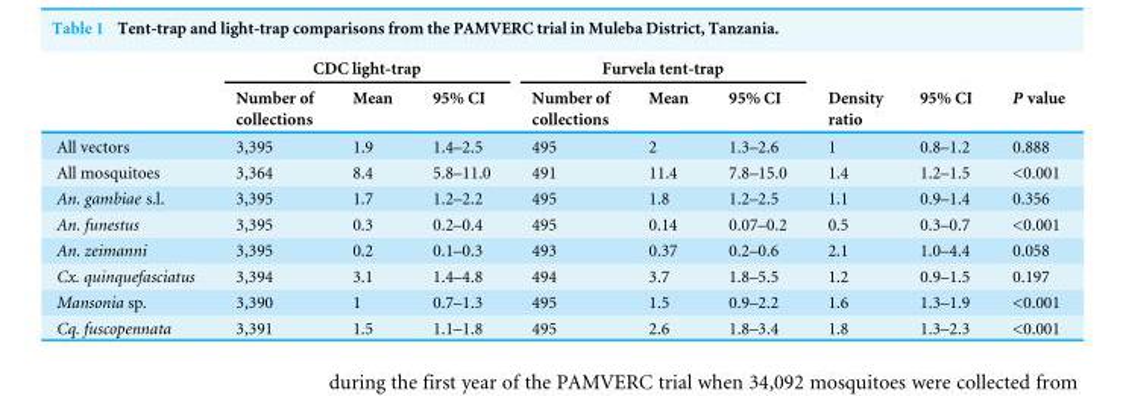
<table><thead><tr><td rowspan="2"></td><td colspan="3">CDC light-trap</td><td colspan="3">Furvela tent-trap</td><td rowspan="2">Density ratio</td><td rowspan="2">95% CI</td><td rowspan="2">P value</td></tr><tr><td>Number of collections</td><td>Mean</td><td>95% CI</td><td>Number of collections</td><td>Mean</td><td>95% CI</td></tr></thead><tbody><tr><td>All vectors</td><td>3,395</td><td>1.9</td><td>1.4–2.5</td><td>495</td><td>2</td><td>1.3–2.6</td><td>1</td><td>0.8–1.2</td><td>0.888</td></tr><tr><td>All mosquitoes</td><td>3,364</td><td>8.4</td><td>5.8–11.0</td><td>491</td><td>11.4</td><td>7.8–15.0</td><td>1.4</td><td>1.2–1.5</td><td>&lt;0.001</td></tr><tr><td>An. gambiae s.l.</td><td>3,395</td><td>1.7</td><td>1.2–2.2</td><td>495</td><td>1.8</td><td>1.2–2.5</td><td>1.1</td><td>0.9–1.4</td><td>0.356</td></tr><tr><td>An. funestus</td><td>3,395</td><td>0.3</td><td>0.2–0.4</td><td>495</td><td>0.14</td><td>0.07–0.2</td><td>0.5</td><td>0.3–0.7</td><td>&lt;0.001</td></tr><tr><td>An. zeimanni</td><td>3,395</td><td>0.2</td><td>0.1–0.3</td><td>493</td><td>0.37</td><td>0.2–0.6</td><td>2.1</td><td>1.0–4.4</td><td>0.058</td></tr><tr><td>Cx. quinquefasciatus</td><td>3,394</td><td>3.1</td><td>1.4–4.8</td><td>494</td><td>3.7</td><td>1.8–5.5</td><td>1.2</td><td>0.9–1.5</td><td>0.197</td></tr><tr><td>Mansonia sp.</td><td>3,390</td><td>1</td><td>0.7–1.3</td><td>495</td><td>1.5</td><td>0.9–2.2</td><td>1.6</td><td>1.3–1.9</td><td>&lt;0.001</td></tr><tr><td>Cq. fuscopennata</td><td>3,391</td><td>1.5</td><td>1.1–1.8</td><td>495</td><td>2.6</td><td>1.8–3.4</td><td>1.8</td><td>1.3–2.3</td><td>&lt;0.001</td></tr></tbody></table>